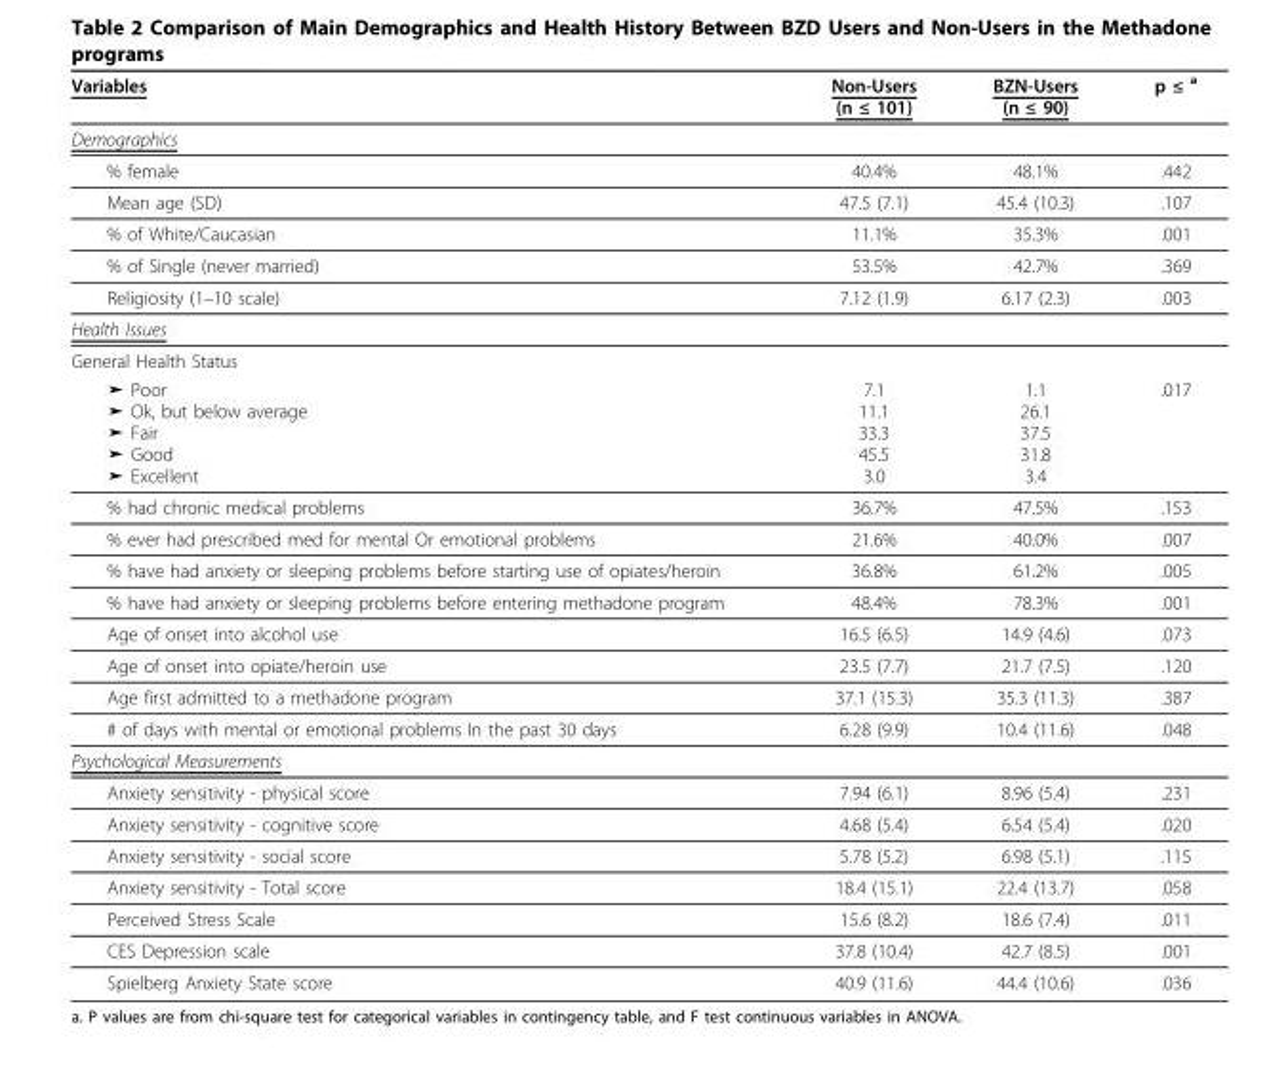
<table><thead><tr><td>Variables</td><td>Non-Users (n ≤ 101)</td><td>BZN-Users (n ≤ 90)</td><td>p ≤ a</td></tr></thead><tbody><tr><td colspan="4">Demographics</td></tr><tr><td>% female</td><td>40.4%</td><td>48.1%</td><td>.442</td></tr><tr><td>Mean age (SD)</td><td>47.5 (7.1)</td><td>45.4 (10.3)</td><td>.107</td></tr><tr><td>% of White/Caucasian</td><td>11.1%</td><td>35.3%</td><td>.001</td></tr><tr><td>% of Single (never married)</td><td>53.5%</td><td>42.7%</td><td>.369</td></tr><tr><td>Religiosity (1–10 scale)</td><td>7.12 (1.9)</td><td>6.17 (2.3)</td><td>.003</td></tr><tr><td colspan="4">Health Issues</td></tr><tr><td colspan="4">General Health Status</td></tr><tr><td>➤ Poor ➤ Ok, but below average ➤ Fair ➤ Good ➤ Excellent</td><td>7.1 11.1 33.3 45.5 3.0</td><td>1.1 26.1 37.5 31.8 3.4</td><td>.017</td></tr><tr><td>% had chronic medical problems</td><td>36.7%</td><td>47.5%</td><td>.153</td></tr><tr><td>% ever had prescribed med for mental Or emotional problems</td><td>21.6%</td><td>40.0%</td><td>.007</td></tr><tr><td>% have had anxiety or sleeping problems before starting use of opiates/heroin</td><td>36.8%</td><td>61.2%</td><td>.005</td></tr><tr><td>% have had anxiety or sleeping problems before entering methadone program</td><td>48.4%</td><td>78.3%</td><td>.001</td></tr><tr><td>Age of onset into alcohol use</td><td>16.5 (6.5)</td><td>14.9 (4.6)</td><td>.073</td></tr><tr><td>Age of onset into opiate/heroin use</td><td>23.5 (7.7)</td><td>21.7 (7.5)</td><td>.120</td></tr><tr><td>Age first admitted to a methadone program</td><td>37.1 (15.3)</td><td>35.3 (11.3)</td><td>.387</td></tr><tr><td># of days with mental or emotional problems In the past 30 days</td><td>6.28 (9.9)</td><td>10.4 (11.6)</td><td>.048</td></tr><tr><td colspan="4">Psychological Measurements</td></tr><tr><td>Anxiety sensitivity - physical score</td><td>7.94 (6.1)</td><td>8.96 (5.4)</td><td>.231</td></tr><tr><td>Anxiety sensitivity - cognitive score</td><td>4.68 (5.4)</td><td>6.54 (5.4)</td><td>.020</td></tr><tr><td>Anxiety sensitivity - social score</td><td>5.78 (5.2)</td><td>6.98 (5.1)</td><td>.115</td></tr><tr><td>Anxiety sensitivity - Total score</td><td>18.4 (15.1)</td><td>22.4 (13.7)</td><td>.058</td></tr><tr><td>Perceived Stress Scale</td><td>15.6 (8.2)</td><td>18.6 (7.4)</td><td>.011</td></tr><tr><td>CES Depression scale</td><td>37.8 (10.4)</td><td>42.7 (8.5)</td><td>.001</td></tr><tr><td>Spielberg Anxiety State score</td><td>40.9 (11.6)</td><td>44.4 (10.6)</td><td>.036</td></tr></tbody></table>